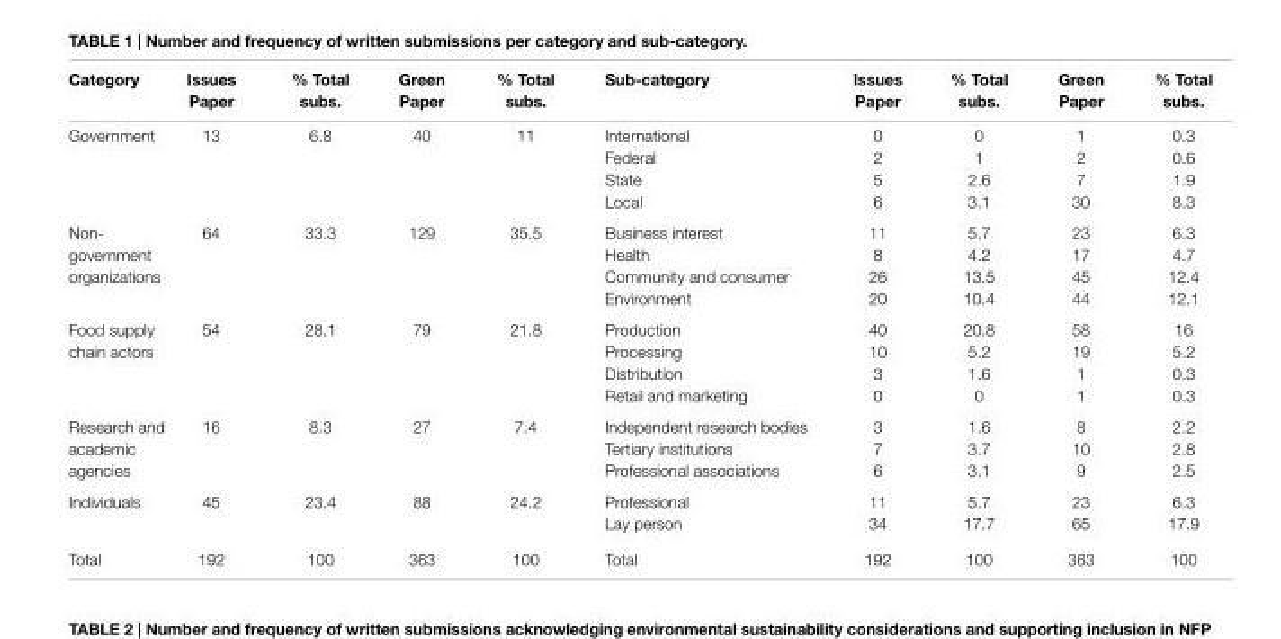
<table><thead><tr><td>category</td><td>issues Paper</td><td>% Total subs.</td><td>green Paper</td><td>% Total subs.</td><td>sub-category</td><td>issues Paper</td><td>% Total subs.</td><td>green Paper</td><td>% Total subs.</td></tr></thead><tbody><tr><td>Government</td><td>13</td><td>6.8</td><td>40</td><td>11</td><td>International Federal State Local</td><td>0 2 5 6</td><td>0 1 2.6 3.1</td><td>1 2 7 30</td><td>0.3 0.6 1.9 8.3</td></tr><tr><td>Non- government organizations</td><td>64</td><td>33.3</td><td>129</td><td>35.5</td><td>Business interest Health Community and consumer Environment</td><td>11 8 26 20</td><td>5.7 4.2 13.5 10.4</td><td>23 17 45 44</td><td>6.3 4.7 12.4 12.1</td></tr><tr><td>Food supply chain actors</td><td>54</td><td>28.1</td><td>79</td><td>21.8</td><td>Production Processing Distribution Retail and marketing</td><td>40 10 3 0</td><td>20.8 5.2 1.6 0</td><td>58 19 1 1</td><td>16 5.2 0.3 0.3</td></tr><tr><td>Research and academic agencies</td><td>16</td><td>8.3</td><td>27</td><td>7.4</td><td>Independent research bodies Tertiary institutions Professional associations</td><td>3 7 6</td><td>1.6 3.7 3.1</td><td>8 10 9</td><td>2.2 2.8 2.5</td></tr><tr><td>Individuals</td><td>45</td><td>23.4</td><td>88</td><td>24.2</td><td>Professional Lay person</td><td>11 34</td><td>5.7 17.7</td><td>23 65</td><td>6.3 17.9</td></tr><tr><td>Total</td><td>192</td><td>100</td><td>363</td><td>100</td><td>Total</td><td>192</td><td>100</td><td>363</td><td>100</td></tr></tbody></table>